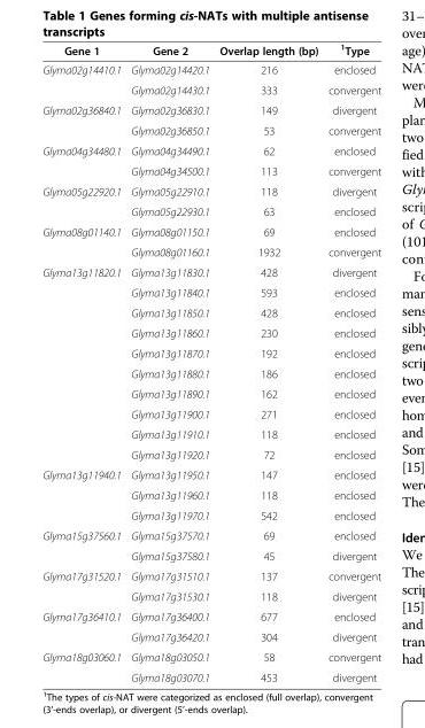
<table><thead><tr><td>Gene 1</td><td>Gene 2</td><td>Overlap length (bp)</td><td><sup>1</sup>Type</td></tr></thead><tbody><tr><td rowspan="2">Glyma02g14410.1</td><td>Glyma02g14420.1</td><td>216</td><td>enclosed</td></tr><tr><td>Glyma02g14430.1</td><td>333</td><td>convergent</td></tr><tr><td rowspan="2">Glyma02g36840.1</td><td>Glyma02g36830.1</td><td>149</td><td>divergent</td></tr><tr><td>Glyma02g36850.1</td><td>53</td><td>convergent</td></tr><tr><td rowspan="2">Glyma04g34480.1</td><td>Glyma04g34490.1</td><td>62</td><td>enclosed</td></tr><tr><td>Glyma04g34500.1</td><td>113</td><td>convergent</td></tr><tr><td rowspan="2">Glyma05g22920.1</td><td>Glyma05g22910.1</td><td>118</td><td>divergent</td></tr><tr><td>Glyma05g22930.1</td><td>63</td><td>enclosed</td></tr><tr><td rowspan="2">Glyma08g01140.1</td><td>Glyma08g01150.1</td><td>69</td><td>enclosed</td></tr><tr><td>Glyma08g01160.1</td><td>1932</td><td>convergent</td></tr><tr><td rowspan="10">Glyma13g11820.1</td><td>Glyma13g11830.1</td><td>428</td><td>divergent</td></tr><tr><td>Glyma13g11840.1</td><td>593</td><td>enclosed</td></tr><tr><td>Glyma13g11850.1</td><td>428</td><td>enclosed</td></tr><tr><td>Glyma13g11860.1</td><td>230</td><td>enclosed</td></tr><tr><td>Glyma13g11870.1</td><td>192</td><td>enclosed</td></tr><tr><td>Glyma13g11880.1</td><td>186</td><td>enclosed</td></tr><tr><td>Glyma13g11890.1</td><td>162</td><td>enclosed</td></tr><tr><td>Glyma13g11900.1</td><td>271</td><td>enclosed</td></tr><tr><td>Glyma13g11910.1</td><td>118</td><td>enclosed</td></tr><tr><td>Glyma13g11920.1</td><td>72</td><td>enclosed</td></tr><tr><td rowspan="3">Glyma13g11940.1</td><td>Glyma13g11950.1</td><td>147</td><td>enclosed</td></tr><tr><td>Glyma13g11960.1</td><td>118</td><td>enclosed</td></tr><tr><td>Glyma13g11970.1</td><td>542</td><td>enclosed</td></tr><tr><td rowspan="2">Glyma15g37560.1</td><td>Glyma15g37570.1</td><td>69</td><td>enclosed</td></tr><tr><td>Glyma15g37580.1</td><td>45</td><td>divergent</td></tr><tr><td rowspan="2">Glyma17g31520.1</td><td>Glyma17g31510.1</td><td>137</td><td>convergent</td></tr><tr><td>Glyma17g31530.1</td><td>118</td><td>divergent</td></tr><tr><td rowspan="2">Glyma17g36410.1</td><td>Glyma17g36400.1</td><td>677</td><td>enclosed</td></tr><tr><td>Glyma17g36420.1</td><td>304</td><td>divergent</td></tr><tr><td rowspan="2">Glyma18g03060.1</td><td>Glyma18g03050.1</td><td>58</td><td>convergent</td></tr><tr><td>Glyma18g03070.1</td><td>453</td><td>divergent</td></tr></tbody></table>